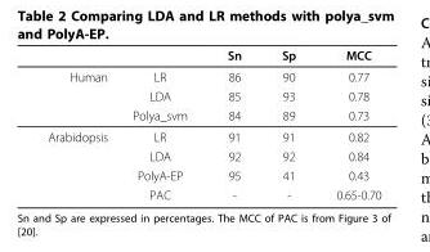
<table><thead><tr><td></td><td></td><td>Sn</td><td>Sp</td><td>MCC</td></tr></thead><tbody><tr><td rowspan="3">Human</td><td>LR</td><td>86</td><td>90</td><td>0.77</td></tr><tr><td>LDA</td><td>85</td><td>93</td><td>0.78</td></tr><tr><td>Polya_svm</td><td>84</td><td>89</td><td>0.73</td></tr><tr><td rowspan="4">Arabidopsis</td><td>LR</td><td>91</td><td>91</td><td>0.82</td></tr><tr><td>LDA</td><td>92</td><td>92</td><td>0.84</td></tr><tr><td>PolyA-EP</td><td>95</td><td>41</td><td>0.43</td></tr><tr><td>PAC</td><td>-</td><td>-</td><td>0.65-0.70</td></tr></tbody></table>